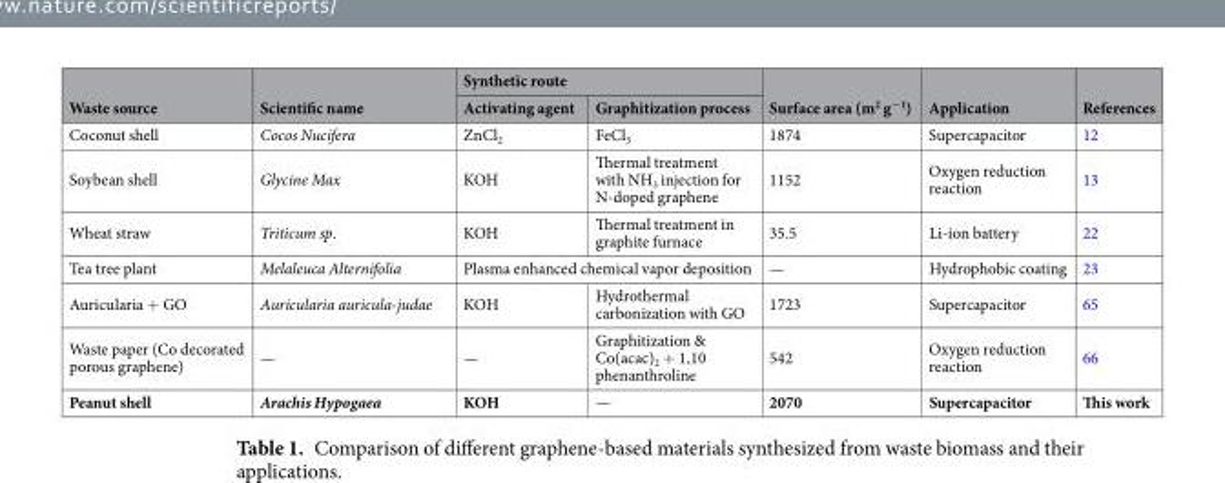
<table><thead><tr><td rowspan="2">Waste source</td><td rowspan="2">Scientific name</td><td colspan="2">Synthetic route</td><td rowspan="2">Surface area (m<sup>2</sup> g<sup>−1</sup>)</td><td rowspan="2">Application</td><td rowspan="2">References</td></tr><tr><td>Activating agent</td><td>Graphitization process</td></tr></thead><tbody><tr><td>Coconut shell</td><td>Cocos Nucifera</td><td>ZnCl<sub>2</sub></td><td>FeCl<sub>3</sub></td><td>1874</td><td>Supercapacitor</td><td>12</td></tr><tr><td>Soybean shell</td><td>Glycine Max</td><td>KOH</td><td>Thermal treatment with NH<sub>3</sub> injection for N-doped graphene</td><td>1152</td><td>Oxygen reduction reaction</td><td>13</td></tr><tr><td>Wheat straw</td><td>Triticum sp.</td><td>KOH</td><td>Thermal treatment in graphite furnace</td><td>35.5</td><td>Li-ion battery</td><td>22</td></tr><tr><td>Tea tree plant</td><td>Melaleuca Alternifolia</td><td colspan="2">Plasma enhanced chemical vapor deposition</td><td>—</td><td>Hydrophobic coating</td><td>23</td></tr><tr><td>Auricularia + GO</td><td>Auricularia auricula-judae</td><td>KOH</td><td>Hydrothermal carbonization with GO</td><td>1723</td><td>Supercapacitor</td><td>65</td></tr><tr><td>Waste paper (Co decorated porous graphene)</td><td>—</td><td>—</td><td>Graphitization &amp; Co(acac)<sub>2</sub> + 1,10 phenanthroline</td><td>542</td><td>Oxygen reduction reaction</td><td>66</td></tr><tr><td>Peanut shell</td><td>Arachis Hypogaea</td><td>KOH</td><td>—</td><td>2070</td><td>Supercapacitor</td><td>This work</td></tr></tbody></table>